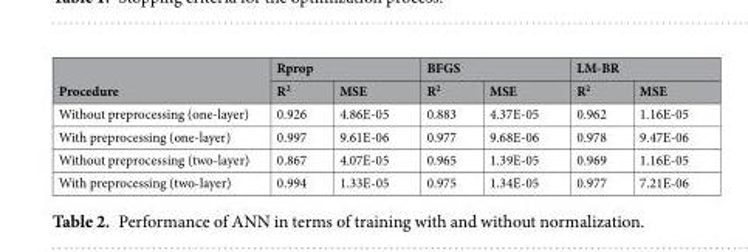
<table><thead><tr><td rowspan="2">Procedure</td><td colspan="2">Rprop</td><td colspan="2">BFGS</td><td colspan="2">LM-BR</td></tr><tr><td>R<sup>2</sup></td><td>MSE</td><td>R<sup>2</sup></td><td>MSE</td><td>R<sup>2</sup></td><td>MSE</td></tr></thead><tbody><tr><td>Without preprocessing (one-layer)</td><td>0.926</td><td>4.86E-05</td><td>0.883</td><td>4.37E-05</td><td>0.962</td><td>1.16E-05</td></tr><tr><td>With preprocessing (one-layer)</td><td>0.997</td><td>9.61E-06</td><td>0.977</td><td>9.68E-06</td><td>0.978</td><td>9.47E-06</td></tr><tr><td>Without preprocessing (two-layer)</td><td>0.867</td><td>4.07E-05</td><td>0.965</td><td>1.39E-05</td><td>0.969</td><td>1.16E-05</td></tr><tr><td>With preprocessing (two-layer)</td><td>0.994</td><td>1.33E-05</td><td>0.975</td><td>1.34E-05</td><td>0.977</td><td>7.21E-06</td></tr></tbody></table>